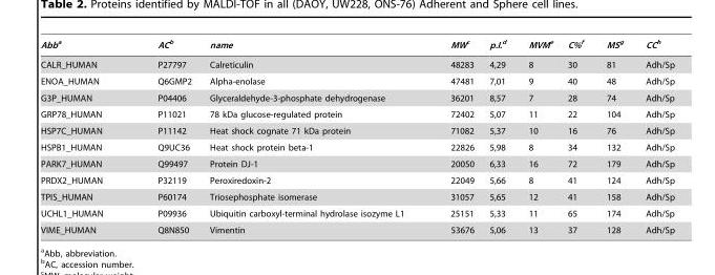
<table><thead><tr><td>Abba</td><td>ACb</td><td>name</td><td>MWc</td><td>p.I.d</td><td>MVMe</td><td>C%f</td><td>MSg</td><td>CCh</td></tr></thead><tbody><tr><td>CALR_HUMAN</td><td>P27797</td><td>Calreticulin</td><td>48283</td><td>4,29</td><td>8</td><td>30</td><td>81</td><td>Adh/Sp</td></tr><tr><td>ENOA_HUMAN</td><td>Q6GMP2</td><td>Alpha-enolase</td><td>47481</td><td>7,01</td><td>9</td><td>40</td><td>48</td><td>Adh/Sp</td></tr><tr><td>G3P_HUMAN</td><td>P04406</td><td>Glyceraldehyde-3-phosphate dehydrogenase</td><td>36201</td><td>8,57</td><td>7</td><td>28</td><td>74</td><td>Adh/Sp</td></tr><tr><td>GRP78_HUMAN</td><td>P11021</td><td>78 kDa glucose-regulated protein</td><td>72402</td><td>5,07</td><td>11</td><td>22</td><td>104</td><td>Adh/Sp</td></tr><tr><td>HSP7C_HUMAN</td><td>P11142</td><td>Heat shock cognate 71 kDa protein</td><td>71082</td><td>5,37</td><td>10</td><td>16</td><td>76</td><td>Adh/Sp</td></tr><tr><td>HSPB1_HUMAN</td><td>Q9UC36</td><td>Heat shock protein beta-1</td><td>22826</td><td>5,98</td><td>8</td><td>34</td><td>132</td><td>Adh/Sp</td></tr><tr><td>PARK7_HUMAN</td><td>Q99497</td><td>Protein DJ-1</td><td>20050</td><td>6,33</td><td>16</td><td>72</td><td>179</td><td>Adh/Sp</td></tr><tr><td>PRDX2_HUMAN</td><td>P32119</td><td>Peroxiredoxin-2</td><td>22049</td><td>5,66</td><td>8</td><td>41</td><td>124</td><td>Adh/Sp</td></tr><tr><td>TPIS_HUMAN</td><td>P60174</td><td>Triosephosphate isomerase</td><td>31057</td><td>5,65</td><td>12</td><td>41</td><td>158</td><td>Adh/Sp</td></tr><tr><td>UCHL1_HUMAN</td><td>P09936</td><td>Ubiquitin carboxyl-terminal hydrolase isozyme L1</td><td>25151</td><td>5,33</td><td>11</td><td>65</td><td>174</td><td>Adh/Sp</td></tr><tr><td>VIME_HUMAN</td><td>Q8N850</td><td>Vimentin</td><td>53676</td><td>5,06</td><td>13</td><td>37</td><td>128</td><td>Adh/Sp</td></tr></tbody></table>